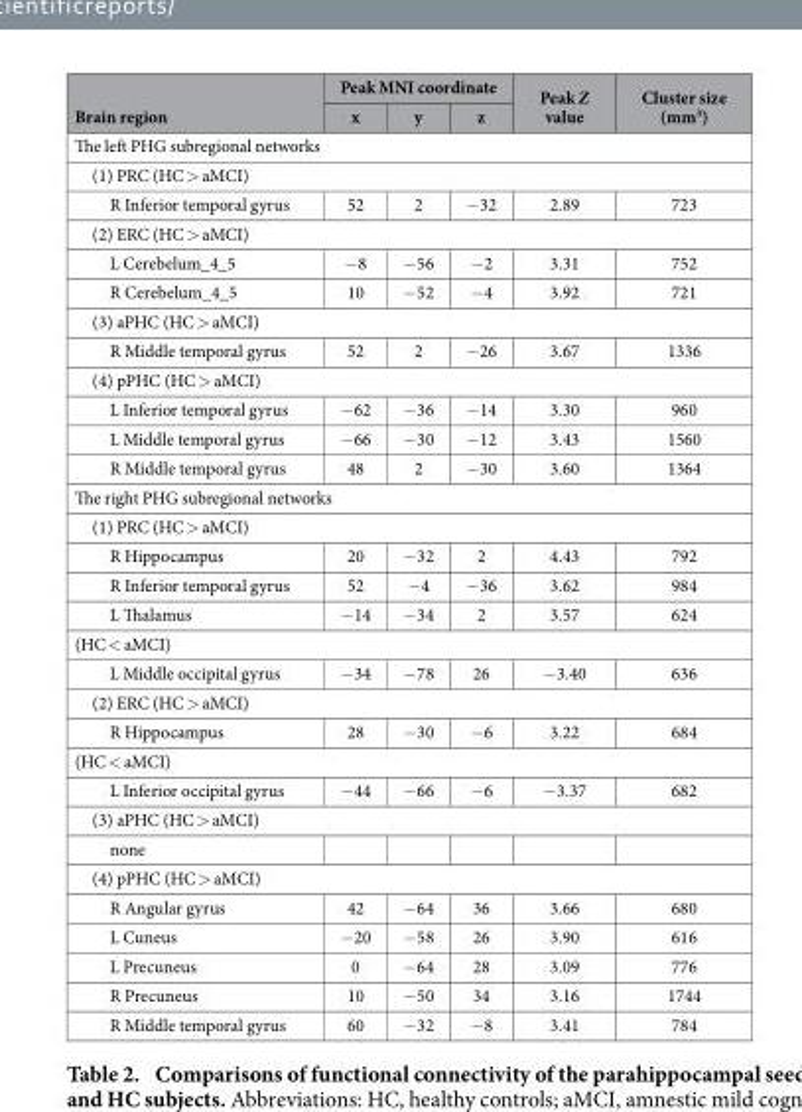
<table><thead><tr><td rowspan="2">Brain region</td><td colspan="3">Peak MNI coordinate</td><td rowspan="2">Peak Z value</td><td rowspan="2">Cluster size (mm<sup>3</sup>)</td></tr><tr><td>x</td><td>y</td><td>z</td></tr></thead><tbody><tr><td colspan="6">The left PHG subregional networks</td></tr><tr><td colspan="6">(1) PRC (HC &gt; aMCI)</td></tr><tr><td>R Inferior temporal gyrus</td><td>52</td><td>2</td><td>− 32</td><td>2.89</td><td>723</td></tr><tr><td colspan="6">(2) ERC (HC &gt; aMCI)</td></tr><tr><td>L Cerebelum_4_5</td><td>− 8</td><td>− 56</td><td>− 2</td><td>3.31</td><td>752</td></tr><tr><td>R Cerebelum_4_5</td><td>10</td><td>− 52</td><td>− 4</td><td>3.92</td><td>721</td></tr><tr><td colspan="6">(3) aPHC (HC &gt; aMCI)</td></tr><tr><td>R Middle temporal gyrus</td><td>52</td><td>2</td><td>− 26</td><td>3.67</td><td>1336</td></tr><tr><td colspan="6">(4) pPHC (HC &gt; aMCI)</td></tr><tr><td>L Inferior temporal gyrus</td><td>− 62</td><td>− 36</td><td>− 14</td><td>3.30</td><td>960</td></tr><tr><td>L Middle temporal gyrus</td><td>− 66</td><td>− 30</td><td>− 12</td><td>3.43</td><td>1560</td></tr><tr><td>R Middle temporal gyrus</td><td>48</td><td>2</td><td>− 30</td><td>3.60</td><td>1364</td></tr><tr><td colspan="6">The right PHG subregional networks</td></tr><tr><td colspan="6">(1) PRC (HC &gt; aMCI)</td></tr><tr><td>R Hippocampus</td><td>20</td><td>− 32</td><td>2</td><td>4.43</td><td>792</td></tr><tr><td>R Inferior temporal gyrus</td><td>52</td><td>− 4</td><td>− 36</td><td>3.62</td><td>984</td></tr><tr><td>L Thalamus</td><td>− 14</td><td>− 34</td><td>2</td><td>3.57</td><td>624</td></tr><tr><td colspan="6">(HC &lt; aMCI)</td></tr><tr><td>L Middle occipital gyrus</td><td>− 34</td><td>− 78</td><td>26</td><td>− 3.40</td><td>636</td></tr><tr><td colspan="6">(2) ERC (HC &gt; aMCI)</td></tr><tr><td>R Hippocampus</td><td>28</td><td>− 30</td><td>− 6</td><td>3.22</td><td>684</td></tr><tr><td colspan="6">(HC &lt; aMCI)</td></tr><tr><td>L Inferior occipital gyrus</td><td>− 44</td><td>− 66</td><td>− 6</td><td>− 3.37</td><td>682</td></tr><tr><td colspan="6">(3) aPHC (HC &gt; aMCI)</td></tr><tr><td colspan="6">none</td></tr><tr><td colspan="6">(4) pPHC (HC &gt; aMCI)</td></tr><tr><td>R Angular gyrus</td><td>42</td><td>− 64</td><td>36</td><td>3.66</td><td>680</td></tr><tr><td>L Cuneus</td><td>− 20</td><td>− 58</td><td>26</td><td>3.90</td><td>616</td></tr><tr><td>L Precuneus</td><td>0</td><td>− 64</td><td>28</td><td>3.09</td><td>776</td></tr><tr><td>R Precuneus</td><td>10</td><td>− 50</td><td>34</td><td>3.16</td><td>1744</td></tr><tr><td>R Middle temporal gyrus</td><td>60</td><td>− 32</td><td>− 8</td><td>3.41</td><td>784</td></tr></tbody></table>